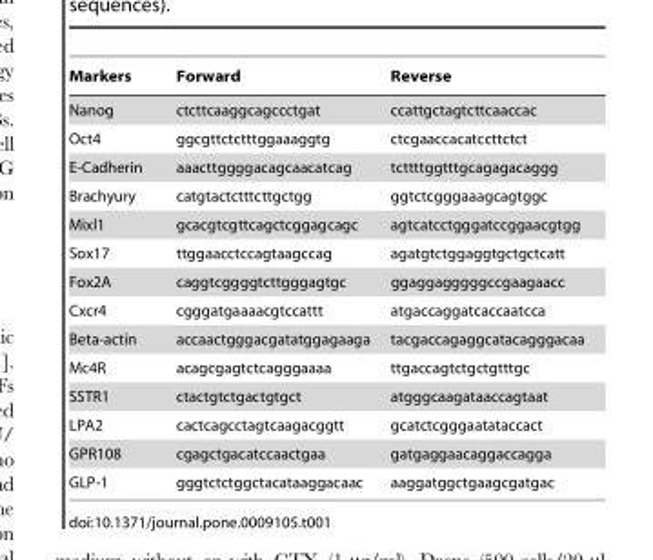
<table><thead><tr><td>Markers</td><td>Forward</td><td>Reverse</td></tr></thead><tbody><tr><td>Nanog</td><td>ctcttcaaggcagccctgat</td><td>ccattgctagtcttcaaccac</td></tr><tr><td>Oct4</td><td>ggcgttctctttggaaaggtg</td><td>ctcgaaccacatccttctct</td></tr><tr><td>E-Cadherin</td><td>aaacttggggacagcaacatcag</td><td>tcttttggtttgcagagacaggg</td></tr><tr><td>Brachyury</td><td>catgtactctttcttgctgg</td><td>ggtctcgggaaagcagtggc</td></tr><tr><td>Mixl1</td><td>gcacgtcgttcagctcggagcagc</td><td>agtcatcctgggatccggaacgtgg</td></tr><tr><td>Sox17</td><td>ttggaacctccagtaagccag</td><td>agatgtctggaggtgctgctcatt</td></tr><tr><td>Fox2A</td><td>caggtcggggtcttgggagtgc</td><td>ggaggagggggccgaagaacc</td></tr><tr><td>Cxcr4</td><td>cgggatgaaaacgtccattt</td><td>atgaccaggatcaccaatcca</td></tr><tr><td>Beta-actin</td><td>accaactgggacgatatggagaaga</td><td>tacgaccagaggcatacagggacaa</td></tr><tr><td>Mc4R</td><td>acagcgagtctcagggaaaa</td><td>ttgaccagtctgctgtttgc</td></tr><tr><td>SSTR1</td><td>ctactgtctgactgtgct</td><td>atgggcaagataaccagtaat</td></tr><tr><td>LPA2</td><td>cactcagcctagtcaagacggtt</td><td>gcatctcgggaatataccact</td></tr><tr><td>GPR108</td><td>cgagctgacatccaactgaa</td><td>gatgaggaacaggaccagga</td></tr><tr><td>GLP-1</td><td>gggtctctggctacataaggacaac</td><td>aaggatggctgaagcgatgac</td></tr></tbody></table>